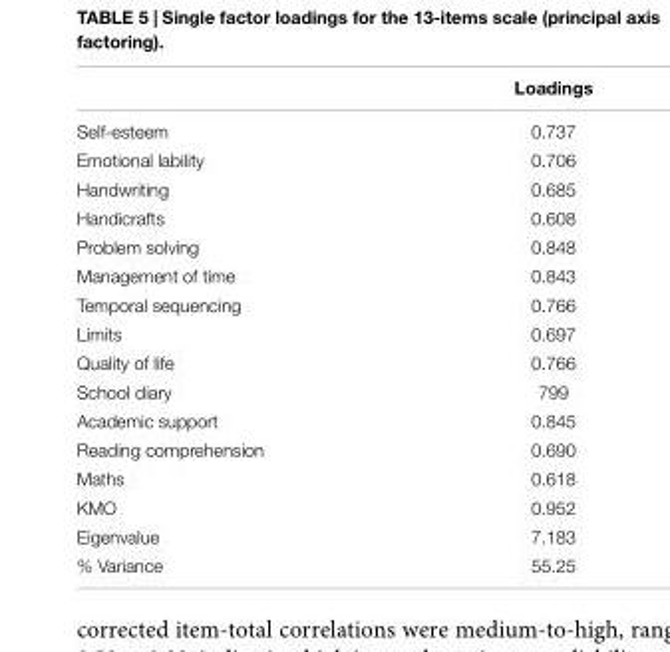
<table><thead><tr><td></td><td>Loadings</td></tr></thead><tbody><tr><td>Self-esteem</td><td>0.737</td></tr><tr><td>Emotional lability</td><td>0.706</td></tr><tr><td>Handwriting</td><td>0.685</td></tr><tr><td>Handicrafts</td><td>0.608</td></tr><tr><td>Problem solving</td><td>0.848</td></tr><tr><td>Management of time</td><td>0.843</td></tr><tr><td>Temporal sequencing</td><td>0.766</td></tr><tr><td>Limits</td><td>0.697</td></tr><tr><td>Quality of life</td><td>0.766</td></tr><tr><td>School diary</td><td>799</td></tr><tr><td>Academic support</td><td>0.845</td></tr><tr><td>Reading comprehension</td><td>0.690</td></tr><tr><td>Maths</td><td>0.618</td></tr><tr><td>KMO</td><td>0.952</td></tr><tr><td>Eigenvalue</td><td>7.183</td></tr><tr><td>% Variance</td><td>55.25</td></tr></tbody></table>